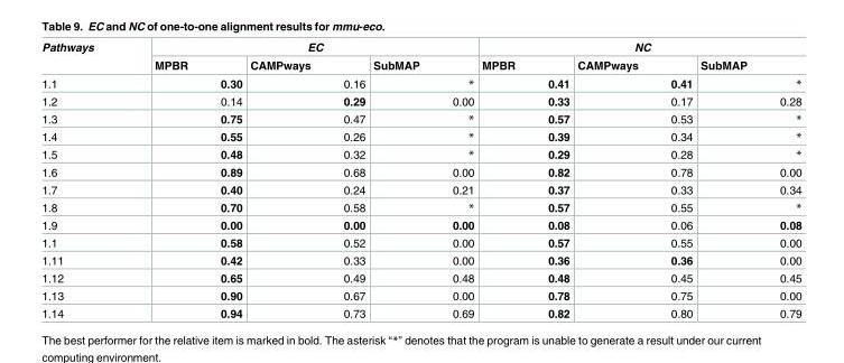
<table><thead><tr><td rowspan="2">Pathways</td><td colspan="3">EC</td><td colspan="3">NC</td></tr><tr><td>MPBR</td><td>CAMPways</td><td>SubMAP</td><td>MPBR</td><td>CAMPways</td><td>SubMAP</td></tr></thead><tbody><tr><td>1.1</td><td>0.30</td><td>0.16</td><td>*</td><td>0.41</td><td>0.41</td><td>*</td></tr><tr><td>1.2</td><td>0.14</td><td>0.29</td><td>0.00</td><td>0.33</td><td>0.17</td><td>0.28</td></tr><tr><td>1.3</td><td>0.75</td><td>0.47</td><td>*</td><td>0.57</td><td>0.53</td><td>*</td></tr><tr><td>1.4</td><td>0.55</td><td>0.26</td><td>*</td><td>0.39</td><td>0.34</td><td>*</td></tr><tr><td>1.5</td><td>0.48</td><td>0.32</td><td>*</td><td>0.29</td><td>0.28</td><td>*</td></tr><tr><td>1.6</td><td>0.89</td><td>0.68</td><td>0.00</td><td>0.82</td><td>0.78</td><td>0.00</td></tr><tr><td>1.7</td><td>0.40</td><td>0.24</td><td>0.21</td><td>0.37</td><td>0.33</td><td>0.34</td></tr><tr><td>1.8</td><td>0.70</td><td>0.58</td><td>*</td><td>0.57</td><td>0.55</td><td>*</td></tr><tr><td>1.9</td><td>0.00</td><td>0.00</td><td>0.00</td><td>0.08</td><td>0.06</td><td>0.08</td></tr><tr><td>1.1</td><td>0.58</td><td>0.52</td><td>0.00</td><td>0.57</td><td>0.55</td><td>0.00</td></tr><tr><td>1.11</td><td>0.42</td><td>0.33</td><td>0.00</td><td>0.36</td><td>0.36</td><td>0.00</td></tr><tr><td>1.12</td><td>0.65</td><td>0.49</td><td>0.48</td><td>0.48</td><td>0.45</td><td>0.45</td></tr><tr><td>1.13</td><td>0.90</td><td>0.67</td><td>0.00</td><td>0.78</td><td>0.75</td><td>0.00</td></tr><tr><td>1.14</td><td>0.94</td><td>0.73</td><td>0.69</td><td>0.82</td><td>0.80</td><td>0.79</td></tr></tbody></table>